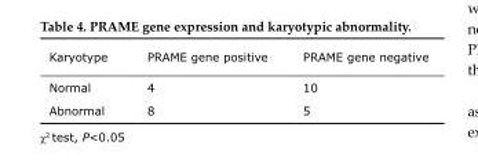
<table><thead><tr><td>Karyotype</td><td>PRAME gene positive</td><td>PRAME gene negative</td></tr></thead><tbody><tr><td>Normal</td><td>4</td><td>10</td></tr><tr><td>Abnormal</td><td>8</td><td>5</td></tr></tbody></table>